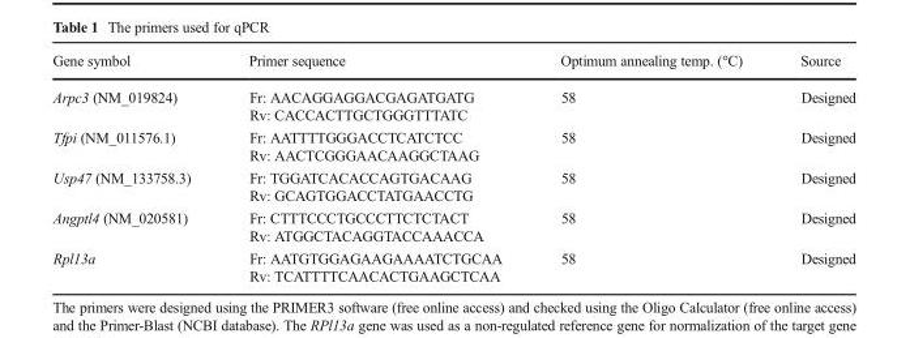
<table><thead><tr><td>Gene symbol</td><td>Primer sequence</td><td>Optimum annealing temp. (°C)</td><td>Source</td></tr></thead><tbody><tr><td rowspan="2">Arpc3 (NM_019824)</td><td>Fr: AACAGGAGGACGAGATGATG</td><td rowspan="2">58</td><td rowspan="2">Designed</td></tr><tr><td>Rv: CACCACTTGCTGGGTTTATC</td></tr><tr><td rowspan="2">Tfpi (NM_011576.1)</td><td>Fr: AATTTTGGGACCTCATCTCC</td><td rowspan="2">58</td><td rowspan="2">Designed</td></tr><tr><td>Rv: AACTCGGGAACAAGGCTAAG</td></tr><tr><td rowspan="2">Usp47 (NM_133758.3)</td><td>Fr: TGGATCACACCAGTGACAAG</td><td rowspan="2">58</td><td rowspan="2">Designed</td></tr><tr><td>Rv: GCAGTGGACCTATGAACCTG</td></tr><tr><td rowspan="2">Angptl4 (NM_020581)</td><td>Fr: CTTTCCCTGCCCTTCTCTACT</td><td rowspan="2">58</td><td rowspan="2">Designed</td></tr><tr><td>Rv: ATGGCTACAGGTACCAAACCA</td></tr><tr><td rowspan="2">Rpl13a</td><td>Fr: AATGTGGAGAAGAAAATCTGCAA</td><td rowspan="2">58</td><td rowspan="2">Designed</td></tr><tr><td>Rv: TCATTTTCAACACTGAAGCTCAA</td></tr></tbody></table>